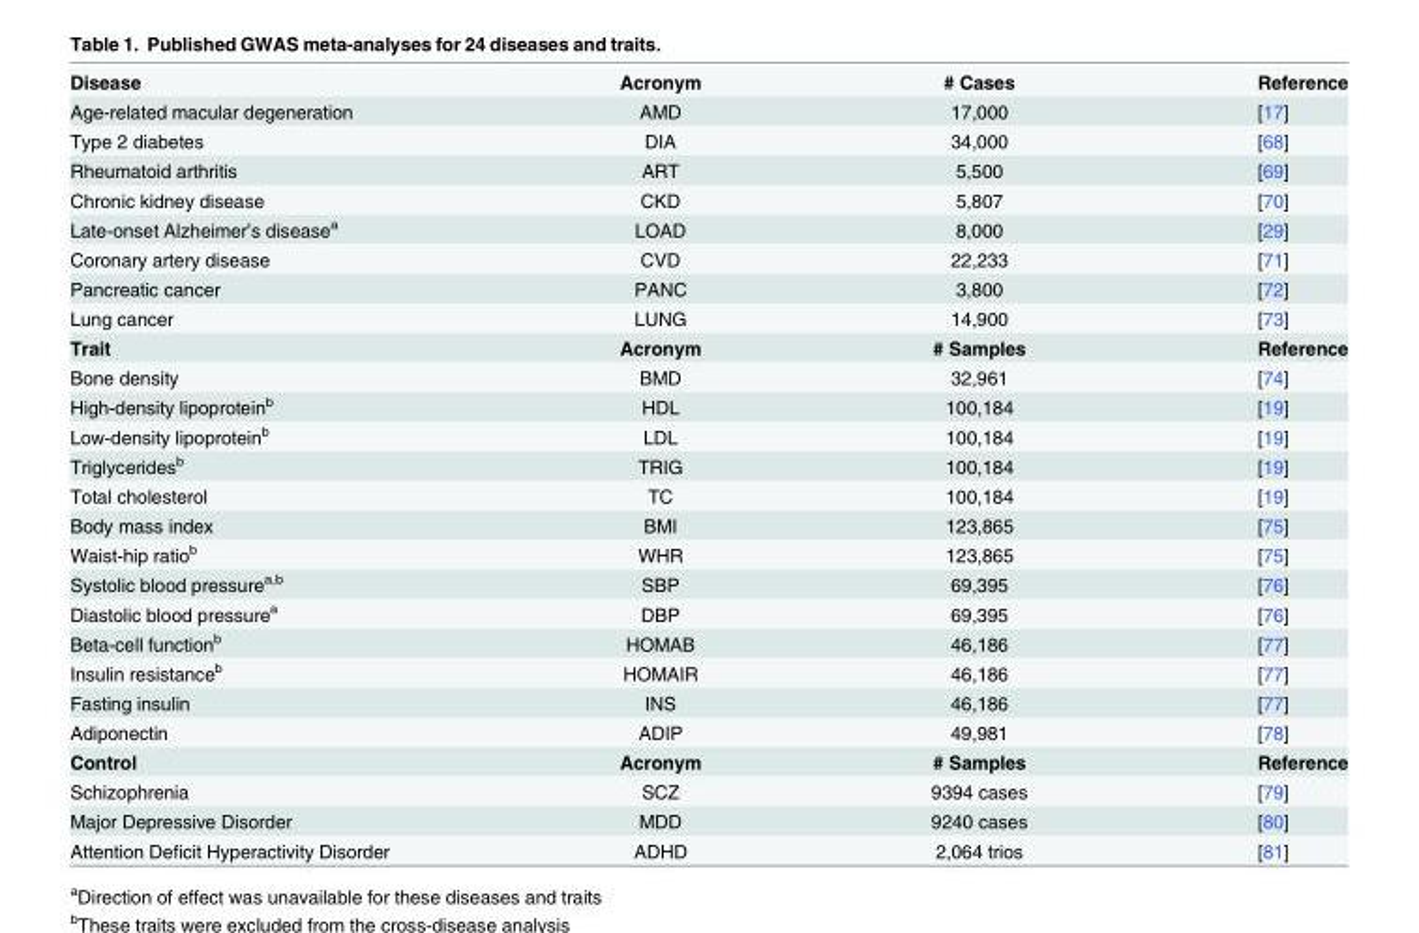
<table><tbody><tr><td>Disease</td><td>Acronym</td><td># Cases</td><td>Reference</td></tr><tr><td>Age-related macular degeneration</td><td>AMD</td><td>17,000</td><td>[17]</td></tr><tr><td>Type 2 diabetes</td><td>DIA</td><td>34,000</td><td>[68]</td></tr><tr><td>Rheumatoid arthritis</td><td>ART</td><td>5,500</td><td>[69]</td></tr><tr><td>Chronic kidney disease</td><td>CKD</td><td>5,807</td><td>[70]</td></tr><tr><td>Late-onset Alzheimer’s disease<sup>a</sup></td><td>LOAD</td><td>8,000</td><td>[29]</td></tr><tr><td>Coronary artery disease</td><td>CVD</td><td>22,233</td><td>[71]</td></tr><tr><td>Pancreatic cancer</td><td>PANC</td><td>3,800</td><td>[72]</td></tr><tr><td>Lung cancer</td><td>LUNG</td><td>14,900</td><td>[73]</td></tr><tr><td>Trait</td><td>Acronym</td><td># Samples</td><td>Reference</td></tr><tr><td>Bone density</td><td>BMD</td><td>32,961</td><td>[74]</td></tr><tr><td>High-density lipoprotein<sup>b</sup></td><td>HDL</td><td>100,184</td><td>[19]</td></tr><tr><td>Low-density lipoprotein<sup>b</sup></td><td>LDL</td><td>100,184</td><td>[19]</td></tr><tr><td>Triglycerides<sup>b</sup></td><td>TRIG</td><td>100,184</td><td>[19]</td></tr><tr><td>Total cholesterol</td><td>TC</td><td>100,184</td><td>[19]</td></tr><tr><td>Body mass index</td><td>BMI</td><td>123,865</td><td>[75]</td></tr><tr><td>Waist-hip ratio<sup>b</sup></td><td>WHR</td><td>123,865</td><td>[75]</td></tr><tr><td>Systolic blood pressure<sup>a,b</sup></td><td>SBP</td><td>69,395</td><td>[76]</td></tr><tr><td>Diastolic blood pressure<sup>a</sup></td><td>DBP</td><td>69,395</td><td>[76]</td></tr><tr><td>Beta-cell function<sup>b</sup></td><td>HOMAB</td><td>46,186</td><td>[77]</td></tr><tr><td>Insulin resistance<sup>b</sup></td><td>HOMAIR</td><td>46,186</td><td>[77]</td></tr><tr><td>Fasting insulin</td><td>INS</td><td>46,186</td><td>[77]</td></tr><tr><td>Adiponectin</td><td>ADIP</td><td>49,981</td><td>[78]</td></tr><tr><td>Control</td><td>Acronym</td><td># Samples</td><td>Reference</td></tr><tr><td>Schizophrenia</td><td>SCZ</td><td>9394 cases</td><td>[79]</td></tr><tr><td>Major Depressive Disorder</td><td>MDD</td><td>9240 cases</td><td>[80]</td></tr><tr><td>Attention Deficit Hyperactivity Disorder</td><td>ADHD</td><td>2,064 trios</td><td>[81]</td></tr></tbody></table>